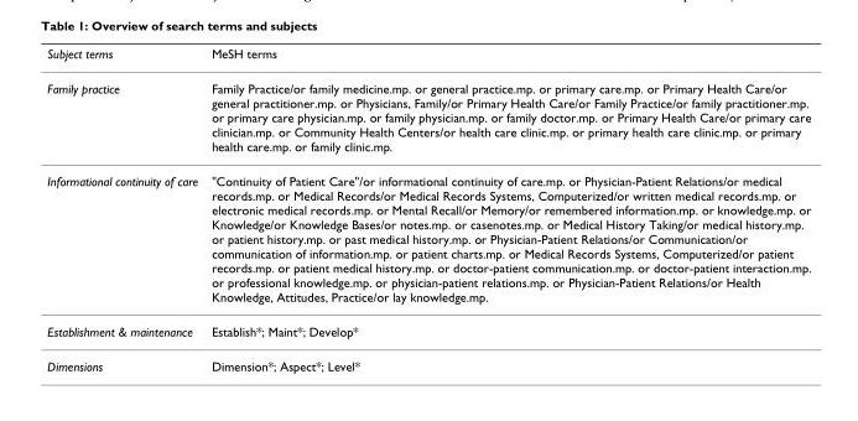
<table><thead><tr><td>Subject terms</td><td>MeSH terms</td></tr></thead><tbody><tr><td>Family practice</td><td>Family Practice/or family medicine.mp. or general practice.mp. or primary care.mp. or Primary Health Care/or general practitioner.mp. or Physicians, Family/or Primary Health Care/or Family Practice/or family practitioner.mp. or primary care physician.mp. or family physician.mp. or family doctor.mp. or Primary Health Care/or primary care clinician.mp. or Community Health Centers/or health care clinic.mp. or primary health care clinic.mp. or primary health care.mp. or family clinic.mp.</td></tr><tr><td>Informational continuity of care</td><td>&quot;Continuity of Patient Care&quot;/or informational continuity of care.mp. or Physician-Patient Relations/or medical records.mp. or Medical Records/or Medical Records Systems, Computerized/or written medical records.mp. or electronic medical records.mp. or Mental Recall/or Memory/or remembered information.mp. or knowledge.mp. or Knowledge/or Knowledge Bases/or notes.mp. or casenotes.mp. or Medical History Taking/or medical history.mp. or patient history.mp. or past medical history.mp. or Physician-Patient Relations/or Communication/or communication of information.mp. or patient charts.mp. or Medical Records Systems, Computerized/or patient records.mp. or patient medical history.mp. or doctor-patient communication.mp. or doctor-patient interaction.mp. or professional knowledge.mp. or physician-patient relations.mp. or Physician-Patient Relations/or Health Knowledge, Attitudes, Practice/or lay knowledge.mp.</td></tr><tr><td>Establishment &amp; maintenance</td><td>Establish*; Maint*; Develop*</td></tr><tr><td>Dimensions</td><td>Dimension*; Aspect*; Level*</td></tr></tbody></table>